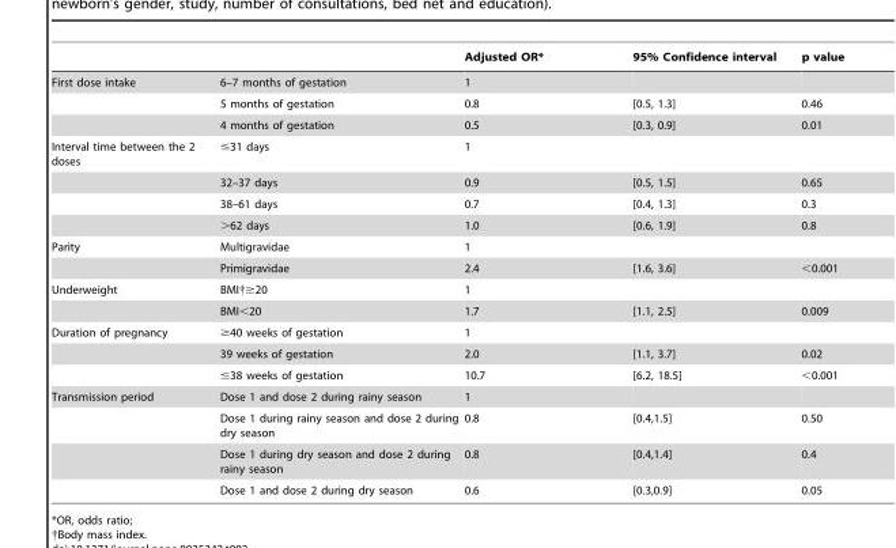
<table><thead><tr><td></td><td></td><td>Adjusted OR*</td><td>95% Confidence interval</td><td>p value</td></tr></thead><tbody><tr><td rowspan="3">First dose intake</td><td>6–7 months of gestation</td><td>1</td><td></td><td></td></tr><tr><td>5 months of gestation</td><td>0.8</td><td>[0.5, 1.3]</td><td>0.46</td></tr><tr><td>4 months of gestation</td><td>0.5</td><td>[0.3, 0.9]</td><td>0.01</td></tr><tr><td rowspan="4">Interval time between the 2 doses</td><td>≤31 days</td><td>1</td><td></td><td></td></tr><tr><td>32–37 days</td><td>0.9</td><td>[0.5, 1.5]</td><td>0.65</td></tr><tr><td>38–61 days</td><td>0.7</td><td>[0.4, 1.3]</td><td>0.3</td></tr><tr><td>&gt;62 days</td><td>1.0</td><td>[0.6, 1.9]</td><td>0.8</td></tr><tr><td rowspan="2">Parity</td><td>Multigravidae</td><td>1</td><td></td><td></td></tr><tr><td>Primigravidae</td><td>2.4</td><td>[1.6, 3.6]</td><td>&lt;0.001</td></tr><tr><td rowspan="2">Underweight</td><td>BMI†≥20</td><td>1</td><td></td><td></td></tr><tr><td>BMI&lt;20</td><td>1.7</td><td>[1.1, 2.5]</td><td>0.009</td></tr><tr><td rowspan="3">Duration of pregnancy</td><td>≥40 weeks of gestation</td><td>1</td><td></td><td></td></tr><tr><td>39 weeks of gestation</td><td>2.0</td><td>[1.1, 3.7]</td><td>0.02</td></tr><tr><td>≤38 weeks of gestation</td><td>10.7</td><td>[6.2, 18.5]</td><td>&lt;0.001</td></tr><tr><td rowspan="4">Transmission period</td><td>Dose 1 and dose 2 during rainy season</td><td>1</td><td></td><td></td></tr><tr><td>Dose 1 during rainy season and dose 2 during dry season</td><td>0.8</td><td>[0.4,1.5]</td><td>0.50</td></tr><tr><td>Dose 1 during dry season and dose 2 during rainy season</td><td>0.8</td><td>[0.4,1.4]</td><td>0.4</td></tr><tr><td>Dose 1 and dose 2 during dry season</td><td>0.6</td><td>[0.3,0.9]</td><td>0.05</td></tr></tbody></table>